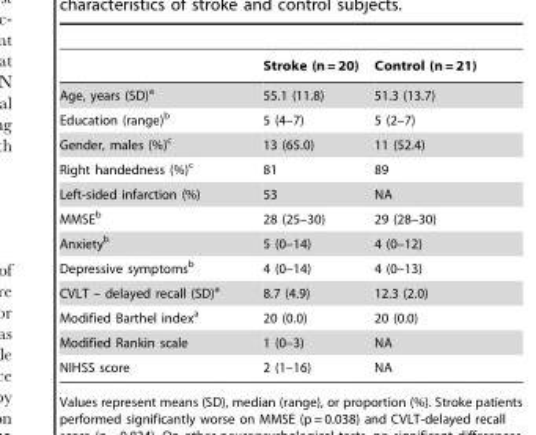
<table><thead><tr><td></td><td>Stroke (n = 20)</td><td>Control (n = 21)</td></tr></thead><tbody><tr><td>Age, years (SD)<sup>a</sup></td><td>55.1 (11.8)</td><td>51.3 (13.7)</td></tr><tr><td>Education (range)<sup>b</sup></td><td>5 (4–7)</td><td>5 (2–7)</td></tr><tr><td>Gender, males (%)<sup>c</sup></td><td>13 (65.0)</td><td>11 (52.4)</td></tr><tr><td>Right handedness (%)<sup>c</sup></td><td>81</td><td>89</td></tr><tr><td>Left-sided infarction (%)</td><td>53</td><td>NA</td></tr><tr><td>MMSE<sup>b</sup></td><td>28 (25–30)</td><td>29 (28–30)</td></tr><tr><td>Anxiety<sup>b</sup></td><td>5 (0–14)</td><td>4 (0–12)</td></tr><tr><td>Depressive symptoms<sup>b</sup></td><td>4 (0–14)</td><td>4 (0–13)</td></tr><tr><td>CVLT – delayed recall (SD)<sup>a</sup></td><td>8.7 (4.9)</td><td>12.3 (2.0)</td></tr><tr><td>Modified Barthel index<sup>a</sup></td><td>20 (0.0)</td><td>20 (0.0)</td></tr><tr><td>Modified Rankin scale</td><td>1 (0–3)</td><td>NA</td></tr><tr><td>NIHSS score</td><td>2 (1–16)</td><td>NA</td></tr></tbody></table>